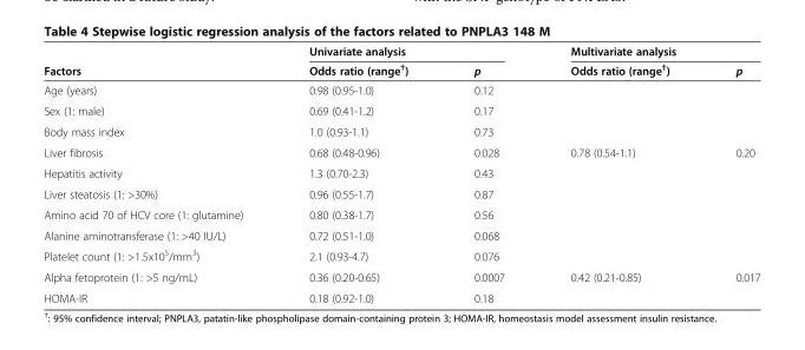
<table><thead><tr><td rowspan="2">Factors</td><td colspan="2">Univariate analysis</td><td colspan="2">Multivariate analysis</td></tr><tr><td>Odds ratio (range<sup>†</sup>)</td><td>p</td><td>Odds ratio (range<sup>†</sup>)</td><td>p</td></tr></thead><tbody><tr><td>Age (years)</td><td>0.98 (0.95-1.0)</td><td>0.12</td><td></td><td></td></tr><tr><td>Sex (1: male)</td><td>0.69 (0.41-1.2)</td><td>0.17</td><td></td><td></td></tr><tr><td>Body mass index</td><td>1.0 (0.93-1.1)</td><td>0.73</td><td></td><td></td></tr><tr><td>Liver fibrosis</td><td>0.68 (0.48-0.96)</td><td>0.028</td><td>0.78 (0.54-1.1)</td><td>0.20</td></tr><tr><td>Hepatitis activity</td><td>1.3 (0.70-2.3)</td><td>0.43</td><td></td><td></td></tr><tr><td>Liver steatosis (1: &gt;30%)</td><td>0.96 (0.55-1.7)</td><td>0.87</td><td></td><td></td></tr><tr><td>Amino acid 70 of HCV core (1: glutamine)</td><td>0.80 (0.38-1.7)</td><td>0.56</td><td></td><td></td></tr><tr><td>Alanine aminotransferase (1: &gt;40 IU/L)</td><td>0.72 (0.51-1.0)</td><td>0.068</td><td></td><td></td></tr><tr><td>Platelet count (1: &gt;1.5x10<sup>5</sup>/mm<sup>3</sup>)</td><td>2.1 (0.93-4.7)</td><td>0.076</td><td></td><td></td></tr><tr><td>Alpha fetoprotein (1: &gt;5 ng/mL)</td><td>0.36 (0.20-0.65)</td><td>0.0007</td><td>0.42 (0.21-0.85)</td><td>0.017</td></tr><tr><td>HOMA-IR</td><td>0.18 (0.92-1.0)</td><td>0.18</td><td></td><td></td></tr></tbody></table>